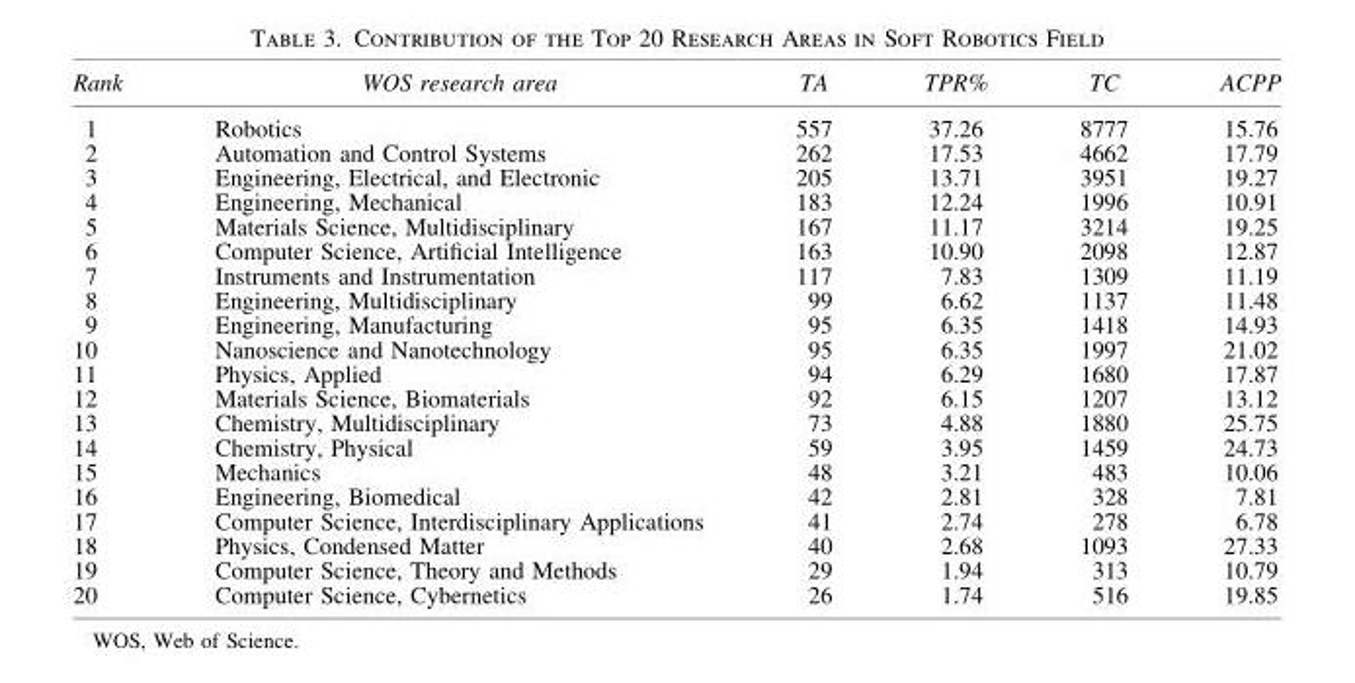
<table><thead><tr><td>Rank</td><td>WOS research area</td><td>TA</td><td>TPR%</td><td>TC</td><td>ACPP</td></tr></thead><tbody><tr><td>1</td><td>Robotics</td><td>557</td><td>37.26</td><td>8777</td><td>15.76</td></tr><tr><td>2</td><td>Automation and Control Systems</td><td>262</td><td>17.53</td><td>4662</td><td>17.79</td></tr><tr><td>3</td><td>Engineering, Electrical, and Electronic</td><td>205</td><td>13.71</td><td>3951</td><td>19.27</td></tr><tr><td>4</td><td>Engineering, Mechanical</td><td>183</td><td>12.24</td><td>1996</td><td>10.91</td></tr><tr><td>5</td><td>Materials Science, Multidisciplinary</td><td>167</td><td>11.17</td><td>3214</td><td>19.25</td></tr><tr><td>6</td><td>Computer Science, Artificial Intelligence</td><td>163</td><td>10.90</td><td>2098</td><td>12.87</td></tr><tr><td>7</td><td>Instruments and Instrumentation</td><td>117</td><td>7.83</td><td>1309</td><td>11.19</td></tr><tr><td>8</td><td>Engineering, Multidisciplinary</td><td>99</td><td>6.62</td><td>1137</td><td>11.48</td></tr><tr><td>9</td><td>Engineering, Manufacturing</td><td>95</td><td>6.35</td><td>1418</td><td>14.93</td></tr><tr><td>10</td><td>Nanoscience and Nanotechnology</td><td>95</td><td>6.35</td><td>1997</td><td>21.02</td></tr><tr><td>11</td><td>Physics, Applied</td><td>94</td><td>6.29</td><td>1680</td><td>17.87</td></tr><tr><td>12</td><td>Materials Science, Biomaterials</td><td>92</td><td>6.15</td><td>1207</td><td>13.12</td></tr><tr><td>13</td><td>Chemistry, Multidisciplinary</td><td>73</td><td>4.88</td><td>1880</td><td>25.75</td></tr><tr><td>14</td><td>Chemistry, Physical</td><td>59</td><td>3.95</td><td>1459</td><td>24.73</td></tr><tr><td>15</td><td>Mechanics</td><td>48</td><td>3.21</td><td>483</td><td>10.06</td></tr><tr><td>16</td><td>Engineering, Biomedical</td><td>42</td><td>2.81</td><td>328</td><td>7.81</td></tr><tr><td>17</td><td>Computer Science, Interdisciplinary Applications</td><td>41</td><td>2.74</td><td>278</td><td>6.78</td></tr><tr><td>18</td><td>Physics, Condensed Matter</td><td>40</td><td>2.68</td><td>1093</td><td>27.33</td></tr><tr><td>19</td><td>Computer Science, Theory and Methods</td><td>29</td><td>1.94</td><td>313</td><td>10.79</td></tr><tr><td>20</td><td>Computer Science, Cybernetics</td><td>26</td><td>1.74</td><td>516</td><td>19.85</td></tr></tbody></table>